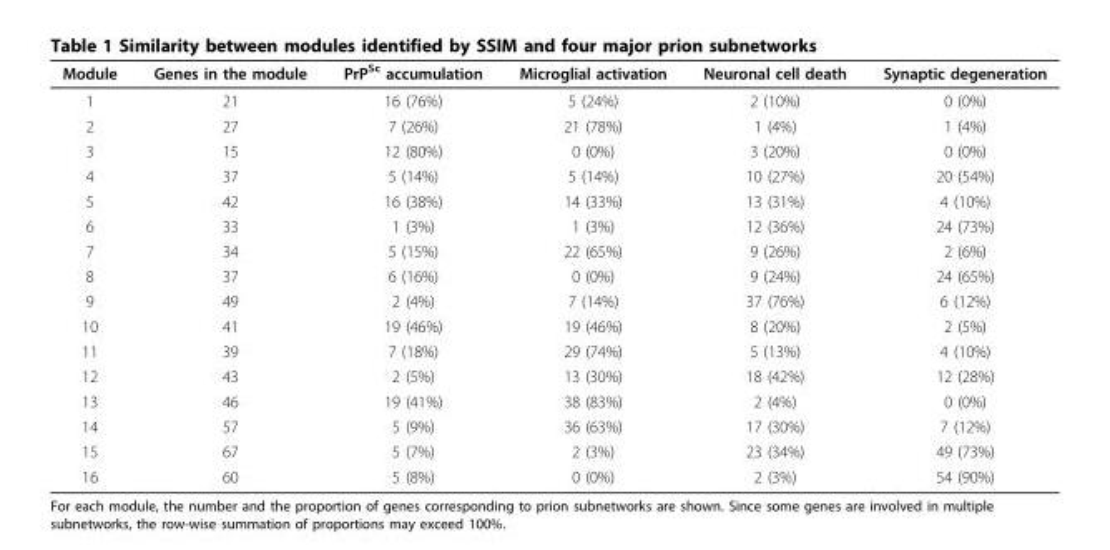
<table><thead><tr><td>Module</td><td>Genes in the module</td><td>PrP<sup>Sc</sup> accumulation</td><td>Microglial activation</td><td>Neuronal cell death</td><td>Synaptic degeneration</td></tr></thead><tbody><tr><td>1</td><td>21</td><td>16 (76%)</td><td>5 (24%)</td><td>2 (10%)</td><td>0 (0%)</td></tr><tr><td>2</td><td>27</td><td>7 (26%)</td><td>21 (78%)</td><td>1 (4%)</td><td>1 (4%)</td></tr><tr><td>3</td><td>15</td><td>12 (80%)</td><td>0 (0%)</td><td>3 (20%)</td><td>0 (0%)</td></tr><tr><td>4</td><td>37</td><td>5 (14%)</td><td>5 (14%)</td><td>10 (27%)</td><td>20 (54%)</td></tr><tr><td>5</td><td>42</td><td>16 (38%)</td><td>14 (33%)</td><td>13 (31%)</td><td>4 (10%)</td></tr><tr><td>6</td><td>33</td><td>1 (3%)</td><td>1 (3%)</td><td>12 (36%)</td><td>24 (73%)</td></tr><tr><td>7</td><td>34</td><td>5 (15%)</td><td>22 (65%)</td><td>9 (26%)</td><td>2 (6%)</td></tr><tr><td>8</td><td>37</td><td>6 (16%)</td><td>0 (0%)</td><td>9 (24%)</td><td>24 (65%)</td></tr><tr><td>9</td><td>49</td><td>2 (4%)</td><td>7 (14%)</td><td>37 (76%)</td><td>6 (12%)</td></tr><tr><td>10</td><td>41</td><td>19 (46%)</td><td>19 (46%)</td><td>8 (20%)</td><td>2 (5%)</td></tr><tr><td>11</td><td>39</td><td>7 (18%)</td><td>29 (74%)</td><td>5 (13%)</td><td>4 (10%)</td></tr><tr><td>12</td><td>43</td><td>2 (5%)</td><td>13 (30%)</td><td>18 (42%)</td><td>12 (28%)</td></tr><tr><td>13</td><td>46</td><td>19 (41%)</td><td>38 (83%)</td><td>2 (4%)</td><td>0 (0%)</td></tr><tr><td>14</td><td>57</td><td>5 (9%)</td><td>36 (63%)</td><td>17 (30%)</td><td>7 (12%)</td></tr><tr><td>15</td><td>67</td><td>5 (7%)</td><td>2 (3%)</td><td>23 (34%)</td><td>49 (73%)</td></tr><tr><td>16</td><td>60</td><td>5 (8%)</td><td>0 (0%)</td><td>2 (3%)</td><td>54 (90%)</td></tr></tbody></table>